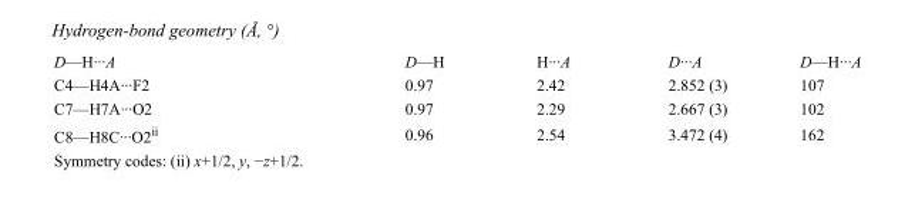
<table><tbody><tr><td>D—H···A</td><td>D—H</td><td>H···A</td><td>D···A</td><td>D—H···A</td></tr><tr><td>C4—H4A···F2</td><td>0.97</td><td>2.42</td><td>2.852 (3)</td><td>107</td></tr><tr><td>C7—H7A···O2</td><td>0.97</td><td>2.29</td><td>2.667 (3)</td><td>102</td></tr><tr><td>C8—H8C···O2<sup>ii</sup></td><td>0.96</td><td>2.54</td><td>3.472 (4)</td><td>162</td></tr></tbody></table>